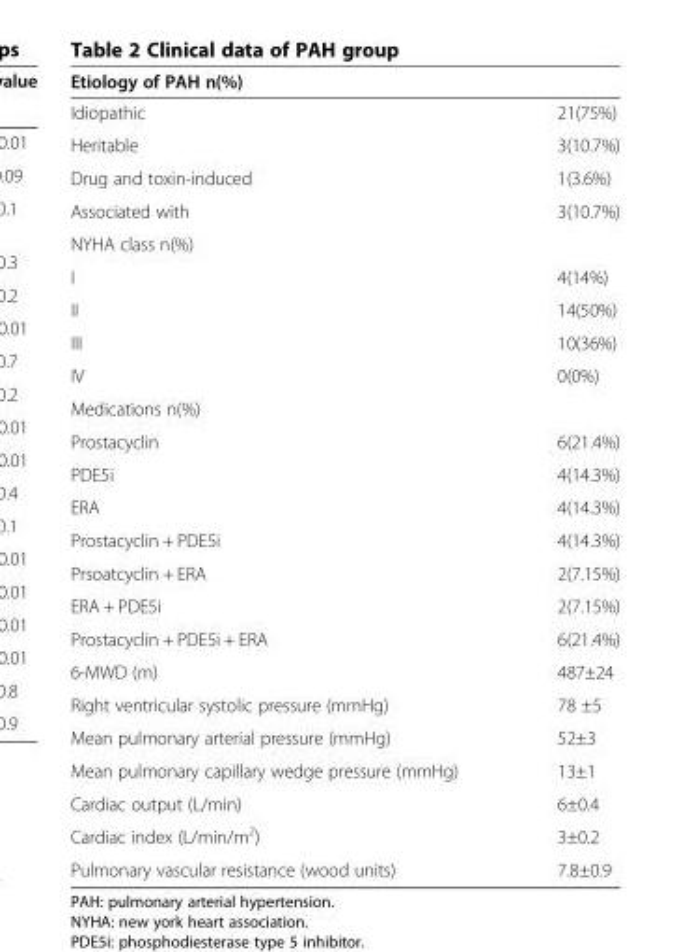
<table><thead><tr><td>Etiology of PAH n(%)</td><td></td></tr></thead><tbody><tr><td>Idiopathic</td><td>21(75%)</td></tr><tr><td>Heritable</td><td>3(10.7%)</td></tr><tr><td>Drug and toxin-induced</td><td>1(3.6%)</td></tr><tr><td>Associated with</td><td>3(10.7%)</td></tr><tr><td colspan="2">NYHA class n(%)</td></tr><tr><td>I</td><td>4(14%)</td></tr><tr><td>II</td><td>14(50%)</td></tr><tr><td>III</td><td>10(36%)</td></tr><tr><td>IV</td><td>0(0%)</td></tr><tr><td colspan="2">Medications n(%)</td></tr><tr><td>Prostacyclin</td><td>6(21.4%)</td></tr><tr><td>PDE5i</td><td>4(14.3%)</td></tr><tr><td>ERA</td><td>4(14.3%)</td></tr><tr><td>Prostacyclin + PDE5i</td><td>4(14.3%)</td></tr><tr><td>Prsoatcyclin + ERA</td><td>2(7.15%)</td></tr><tr><td>ERA + PDE5i</td><td>2(7.15%)</td></tr><tr><td>Prostacyclin + PDE5i + ERA</td><td>6(21.4%)</td></tr><tr><td>6-MWD (m)</td><td>487±24</td></tr><tr><td>Right ventricular systolic pressure (mmHg)</td><td>78 ±5</td></tr><tr><td>Mean pulmonary arterial pressure (mmHg)</td><td>52±3</td></tr><tr><td>Mean pulmonary capillary wedge pressure (mmHg)</td><td>13±1</td></tr><tr><td>Cardiac output (L/min)</td><td>6±0.4</td></tr><tr><td>Cardiac index (L/min/m<sup>2</sup>)</td><td>3±0.2</td></tr><tr><td>Pulmonary vascular resistance (wood units)</td><td>7.8±0.9</td></tr></tbody></table>